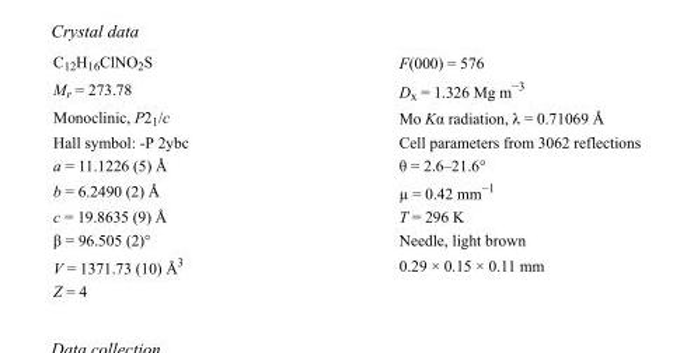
<table><tbody><tr><td>C<sub>12</sub>H<sub>16</sub>ClNO<sub>2</sub>S</td><td>F(000) = 576</td></tr><tr><td>M<sub>r</sub> = 273.78</td><td>D<sub>x</sub> = 1.326 Mg m<sup>−3</sup></td></tr><tr><td>Monoclinic, P2<sub>1</sub>/c</td><td>Mo Kα radiation, λ = 0.71069 Å</td></tr><tr><td>Hall symbol: -P 2ybc</td><td>Cell parameters from 3062 reflections</td></tr><tr><td>a = 11.1226 (5) Å</td><td>θ = 2.6–21.6°</td></tr><tr><td>b = 6.2490 (2) Å</td><td>µ = 0.42 mm<sup>−1</sup></td></tr><tr><td>c = 19.8635 (9) Å</td><td>T = 296 K</td></tr><tr><td>β = 96.505 (2)°</td><td>Needle, light brown</td></tr><tr><td>V = 1371.73 (10) Å<sup>3</sup></td><td>0.29 × 0.15 × 0.11 mm</td></tr><tr><td>Z = 4</td><td></td></tr></tbody></table>